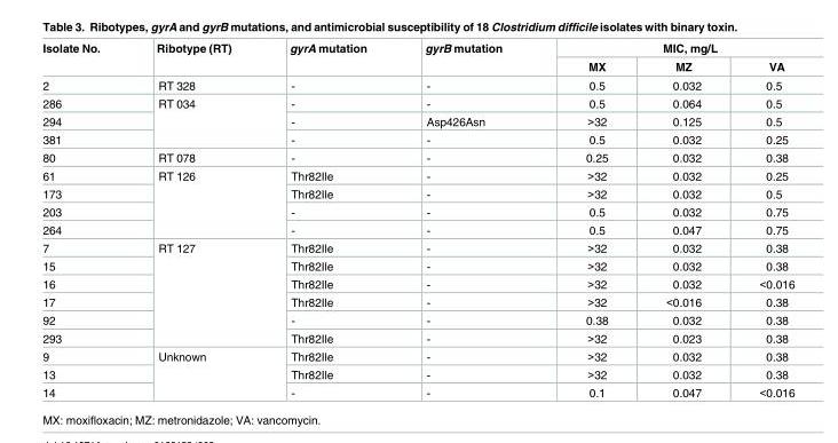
<table><thead><tr><td rowspan="2">Isolate No.</td><td rowspan="2">Ribotype (RT)</td><td rowspan="2">gyrA mutation</td><td rowspan="2">gyrB mutation</td><td colspan="3">MIC, mg/L</td></tr><tr><td>MX</td><td>MZ</td><td>VA</td></tr></thead><tbody><tr><td>2</td><td>RT 328</td><td>-</td><td>-</td><td>0.5</td><td>0.032</td><td>0.5</td></tr><tr><td>286</td><td rowspan="3">RT 034</td><td>-</td><td>-</td><td>0.5</td><td>0.064</td><td>0.5</td></tr><tr><td>294</td><td>-</td><td>Asp426Asn</td><td>&gt;32</td><td>0.125</td><td>0.5</td></tr><tr><td>381</td><td>-</td><td>-</td><td>0.5</td><td>0.032</td><td>0.25</td></tr><tr><td>80</td><td>RT 078</td><td>-</td><td>-</td><td>0.25</td><td>0.032</td><td>0.38</td></tr><tr><td>61</td><td rowspan="4">RT 126</td><td>Thr82Ile</td><td>-</td><td>&gt;32</td><td>0.032</td><td>0.25</td></tr><tr><td>173</td><td>Thr82Ile</td><td>-</td><td>&gt;32</td><td>0.032</td><td>0.5</td></tr><tr><td>203</td><td>-</td><td>-</td><td>0.5</td><td>0.032</td><td>0.75</td></tr><tr><td>264</td><td>-</td><td>-</td><td>0.5</td><td>0.047</td><td>0.75</td></tr><tr><td>7</td><td rowspan="6">RT 127</td><td>Thr82Ile</td><td>-</td><td>&gt;32</td><td>0.032</td><td>0.38</td></tr><tr><td>15</td><td>Thr82Ile</td><td>-</td><td>&gt;32</td><td>0.032</td><td>0.38</td></tr><tr><td>16</td><td>Thr82Ile</td><td>-</td><td>&gt;32</td><td>0.032</td><td>&lt;0.016</td></tr><tr><td>17</td><td>Thr82Ile</td><td>-</td><td>&gt;32</td><td>&lt;0.016</td><td>0.38</td></tr><tr><td>92</td><td>-</td><td>-</td><td>0.38</td><td>0.032</td><td>0.38</td></tr><tr><td>293</td><td>Thr82Ile</td><td>-</td><td>&gt;32</td><td>0.023</td><td>0.38</td></tr><tr><td>9</td><td rowspan="3">Unknown</td><td>Thr82Ile</td><td>-</td><td>&gt;32</td><td>0.032</td><td>0.38</td></tr><tr><td>13</td><td>Thr82Ile</td><td>-</td><td>&gt;32</td><td>0.032</td><td>0.38</td></tr><tr><td>14</td><td>-</td><td>-</td><td>0.1</td><td>0.047</td><td>&lt;0.016</td></tr></tbody></table>